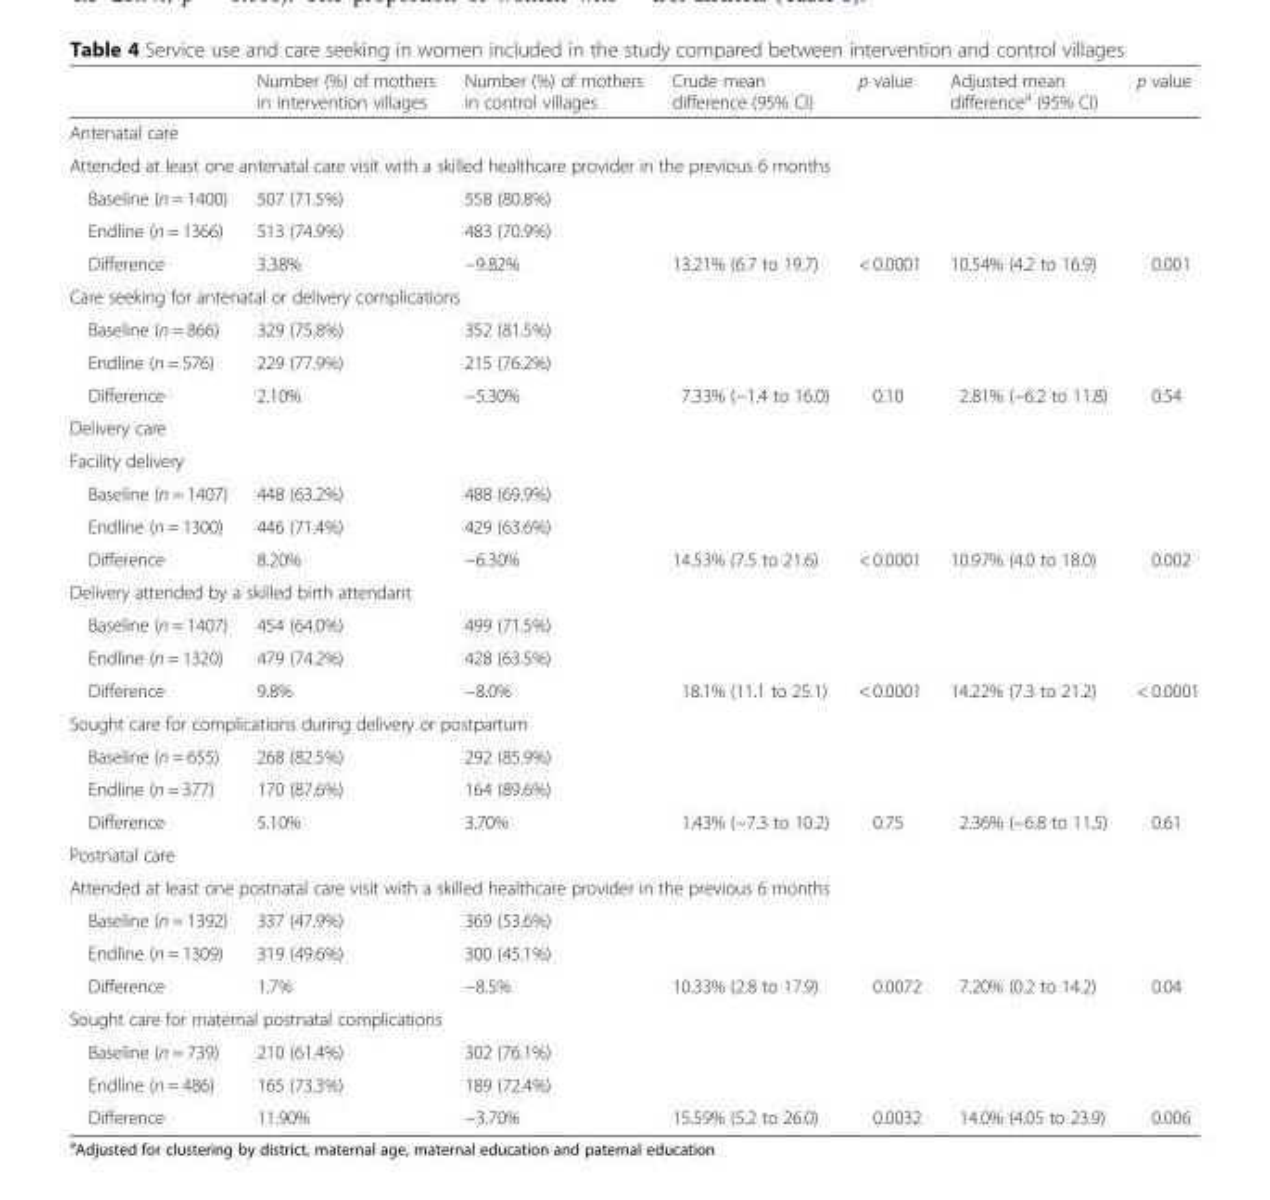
<table><thead><tr><td></td><td>Number (%) of mothers in intervention villages</td><td>Number (%) of mothers in control villages</td><td>Crude mean difference (95% CI)</td><td>p value</td><td>Adjusted mean difference<sup>a</sup> (95% CI)</td><td>p value</td></tr></thead><tbody><tr><td colspan="7">Antenatal care</td></tr><tr><td colspan="7">Attended at least one antenatal care visit with a skilled healthcare provider in the previous 6 months</td></tr><tr><td>Baseline (n = 1400)</td><td>507 (71.5%)</td><td>558 (80.8%)</td><td></td><td></td><td></td><td></td></tr><tr><td>Endline (n = 1366)</td><td>513 (74.9%)</td><td>483 (70.9%)</td><td></td><td></td><td></td><td></td></tr><tr><td>Difference</td><td>3.38%</td><td>−9.82%</td><td>13.21% (6.7 to 19.7)</td><td>&lt; 0.0001</td><td>10.54% (4.2 to 16.9)</td><td>0.001</td></tr><tr><td colspan="7">Care seeking for antenatal or delivery complications</td></tr><tr><td>Baseline (n = 866)</td><td>329 (75.8%)</td><td>352 (81.5%)</td><td></td><td></td><td></td><td></td></tr><tr><td>Endline (n = 576)</td><td>229 (77.9%)</td><td>215 (76.2%)</td><td></td><td></td><td></td><td></td></tr><tr><td>Difference</td><td>2.10%</td><td>−5.30%</td><td>7.33% (−1.4 to 16.0)</td><td>0.10</td><td>2.81% (−6.2 to 11.8)</td><td>0.54</td></tr><tr><td colspan="7">Delivery care</td></tr><tr><td colspan="7">Facility delivery</td></tr><tr><td>Baseline (n = 1407)</td><td>448 (63.2%)</td><td>488 (69.9%)</td><td></td><td></td><td></td><td></td></tr><tr><td>Endline (n = 1300)</td><td>446 (71.4%)</td><td>429 (63.6%)</td><td></td><td></td><td></td><td></td></tr><tr><td>Difference</td><td>8.20%</td><td>−6.30%</td><td>14.53% (7.5 to 21.6)</td><td>&lt; 0.0001</td><td>10.97% (4.0 to 18.0)</td><td>0.002</td></tr><tr><td colspan="7">Delivery attended by a skilled birth attendant</td></tr><tr><td>Baseline (n = 1407)</td><td>454 (64.0%)</td><td>499 (71.5%)</td><td></td><td></td><td></td><td></td></tr><tr><td>Endline (n = 1320)</td><td>479 (74.2%)</td><td>428 (63.5%)</td><td></td><td></td><td></td><td></td></tr><tr><td>Difference</td><td>9.8%</td><td>−8.0%</td><td>18.1% (11.1 to 25.1)</td><td>&lt; 0.0001</td><td>14.22% (7.3 to 21.2)</td><td>&lt; 0.0001</td></tr><tr><td colspan="7">Sought care for complications during delivery or postpartum</td></tr><tr><td>Baseline (n = 655)</td><td>268 (82.5%)</td><td>292 (85.9%)</td><td></td><td></td><td></td><td></td></tr><tr><td>Endline (n = 377)</td><td>170 (87.6%)</td><td>164 (89.6%)</td><td></td><td></td><td></td><td></td></tr><tr><td>Difference</td><td>5.10%</td><td>3.70%</td><td>1.43% (−7.3 to 10.2)</td><td>0.75</td><td>2.36% (−6.8 to 11.5)</td><td>0.61</td></tr><tr><td colspan="7">Postnatal care</td></tr><tr><td colspan="7">Attended at least one postnatal care visit with a skilled healthcare provider in the previous 6 months</td></tr><tr><td>Baseline (n = 1392)</td><td>337 (47.9%)</td><td>369 (53.6%)</td><td></td><td></td><td></td><td></td></tr><tr><td>Endline (n = 1309)</td><td>319 (49.6%)</td><td>300 (45.1%)</td><td></td><td></td><td></td><td></td></tr><tr><td>Difference</td><td>1.7%</td><td>−8.5%</td><td>10.33% (2.8 to 17.9)</td><td>0.0072</td><td>7.20% (0.2 to 14.2)</td><td>0.04</td></tr><tr><td colspan="7">Sought care for maternal postnatal complications</td></tr><tr><td>Baseline (n = 739)</td><td>210 (61.4%)</td><td>302 (76.1%)</td><td></td><td></td><td></td><td></td></tr><tr><td>Endline (n = 486)</td><td>165 (73.3%)</td><td>189 (72.4%)</td><td></td><td></td><td></td><td></td></tr><tr><td>Difference</td><td>11.90%</td><td>−3.70%</td><td>15.59% (5.2 to 26.0)</td><td>0.0032</td><td>14.0% (4.05 to 23.9)</td><td>0.006</td></tr></tbody></table>